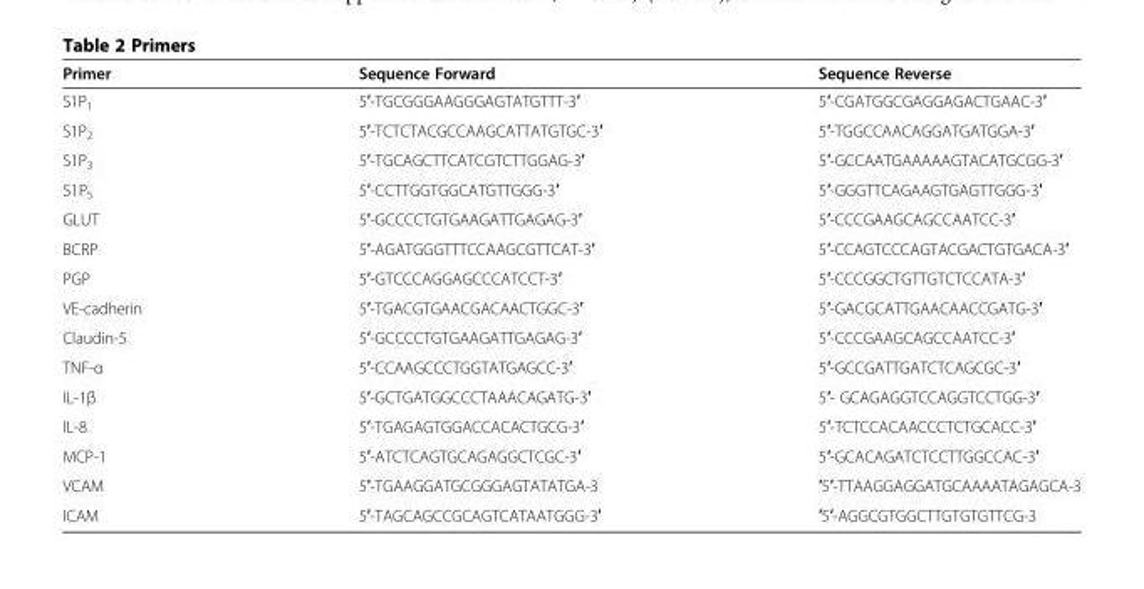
<table><thead><tr><td>Primer</td><td>Sequence Forward</td><td>Sequence Reverse</td></tr></thead><tbody><tr><td>S1P<sub>1</sub></td><td>5′-TGCGGGAAGGGAGTATGTTT-3′</td><td>5′-CGATGGCGAGGAGACTGAAC-3′</td></tr><tr><td>S1P<sub>2</sub></td><td>5′-TCTCTACGCCAAGCATTATGTGC-3′</td><td>5′-TGGCCAACAGGATGATGGA-3′</td></tr><tr><td>S1P<sub>3</sub></td><td>5′-TGCAGCTTCATCGTCTTGGAG-3′</td><td>5′-GCCAATGAAAAAGTACATGCGG-3′</td></tr><tr><td>S1P<sub>5</sub></td><td>5′-CCTTGGTGGCATGTTGGG-3′</td><td>5′-GGGTTCAGAAGTGAGTTGGG-3′</td></tr><tr><td>GLUT</td><td>5′-GCCCCTGTGAAGATTGAGAG-3′</td><td>5′-CCCGAAGCAGCCAATCC-3′</td></tr><tr><td>BCRP</td><td>5′-AGATGGGTTTCCAAGCGTTCAT-3′</td><td>5′-CCAGTCCCAGTACGACTGTGACA-3′</td></tr><tr><td>PGP</td><td>5′-GTCCCAGGAGCCCATCCT-3′</td><td>5′-CCCGGCTGTTGTCTCCATA-3′</td></tr><tr><td>VE-cadherin</td><td>5′-TGACGTGAACGACAACTGGC-3′</td><td>5′-GACGCATTGAACAACCGATG-3′</td></tr><tr><td>Claudin-5</td><td>5′-GCCCCTGTGAAGATTGAGAG-3′</td><td>5′-CCCGAAGCAGCCAATCC-3′</td></tr><tr><td>TNF-α</td><td>5′-CCAAGCCCTGGTATGAGCC-3′</td><td>5′-GCCGATTGATCTCAGCGC-3′</td></tr><tr><td>IL-1β</td><td>5′-GCTGATGGCCCTAAACAGATG-3′</td><td>5′- GCAGAGGTCCAGGTCCTGG-3′</td></tr><tr><td>IL-8</td><td>5′-TGAGAGTGGACCACACTGCG-3′</td><td>5′-TCTCCACAACCCTCTGCACC-3′</td></tr><tr><td>MCP-1</td><td>5′-ATCTCAGTGCAGAGGCTCGC-3′</td><td>5′-GCACAGATCTCCTTGGCCAC-3′</td></tr><tr><td>VCAM</td><td>5′-TGAAGGATGCGGGAGTATATGA-3</td><td>′5′-TTAAGGAGGATGCAAAATAGAGCA-3</td></tr><tr><td>ICAM</td><td>5′-TAGCAGCCGCAGTCATAATGGG-3′</td><td>′5′-AGGCGTGGCTTGTGTGTTCG-3</td></tr></tbody></table>